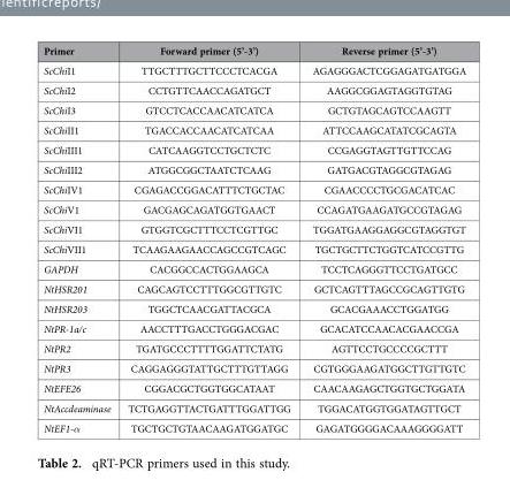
<table><thead><tr><td>Primer</td><td>Forward primer (5’-3’)</td><td>Reverse primer (5’-3’)</td></tr></thead><tbody><tr><td>ScChiI1</td><td>TTGCTTTGCTTCCCTCACGA</td><td>AGAGGGACTCGGAGATGATGGA</td></tr><tr><td>ScChiI2</td><td>CCTGTTCAACCAGATGCT</td><td>AAGGCGGAGTAGGTGTAG</td></tr><tr><td>ScChiI3</td><td>GTCCTCACCAACATCATCA</td><td>GCTGTAGCAGTCCAAGTT</td></tr><tr><td>ScChiII1</td><td>TGACCACCAACATCATCAA</td><td>ATTCCAAGCATATCGCAGTA</td></tr><tr><td>ScChiIII1</td><td>CATCAAGGTCCTGCTCTC</td><td>CCGAGGTAGTTGTTCCAG</td></tr><tr><td>ScChiIII2</td><td>ATGGCGGCTAATCTCAAG</td><td>GATGACGTAGGCGTAGAG</td></tr><tr><td>ScChiIV1</td><td>CGAGACCGGACATTTCTGCTAC</td><td>CGAACCCCTGCGACATCAC</td></tr><tr><td>ScChiV1</td><td>GACGAGCAGATGGTGAACT</td><td>CCAGATGAAGATGCCGTAGAG</td></tr><tr><td>ScChiVI1</td><td>GTGGTCGCTTTCCTCGTTGC</td><td>TGGATGAAGGAGGCGTAGGTGT</td></tr><tr><td>ScChiVII1</td><td>TCAAGAAGAACCAGCCGTCAGC</td><td>TGCTGCTTCTGGTCATCCGTTG</td></tr><tr><td>GAPDH</td><td>CACGGCCACTGGAAGCA</td><td>TCCTCAGGGTTCCTGATGCC</td></tr><tr><td>NtHSR201</td><td>CAGCAGTCCTTTGGCGTTGTC</td><td>GCTCAGTTTAGCCGCAGTTGTG</td></tr><tr><td>NtHSR203</td><td>TGGCTCAACGATTACGCA</td><td>GCACGAAACCTGGATGG</td></tr><tr><td>NtPR-1a/c</td><td>AACCTTTGACCTGGGACGAC</td><td>GCACATCCAACACGAACCGA</td></tr><tr><td>NtPR2</td><td>TGATGCCCTTTTGGATTCTATG</td><td>AGTTCCTGCCCCGCTTT</td></tr><tr><td>NtPR3</td><td>CAGGAGGGTATTGCTTTGTTAGG</td><td>CGTGGGAAGATGGCTTGTTGTC</td></tr><tr><td>NtEFE26</td><td>CGGACGCTGGTGGCATAAT</td><td>CAACAAGAGCTGGTGCTGGATA</td></tr><tr><td>NtAccdeaminase</td><td>TCTGAGGTTACTGATTTGGATTGG</td><td>TGGACATGGTGGATAGTTGCT</td></tr><tr><td>NtEF1-α</td><td>TGCTGCTGTAACAAGATGGATGC</td><td>GAGATGGGGACAAAGGGGATT</td></tr></tbody></table>